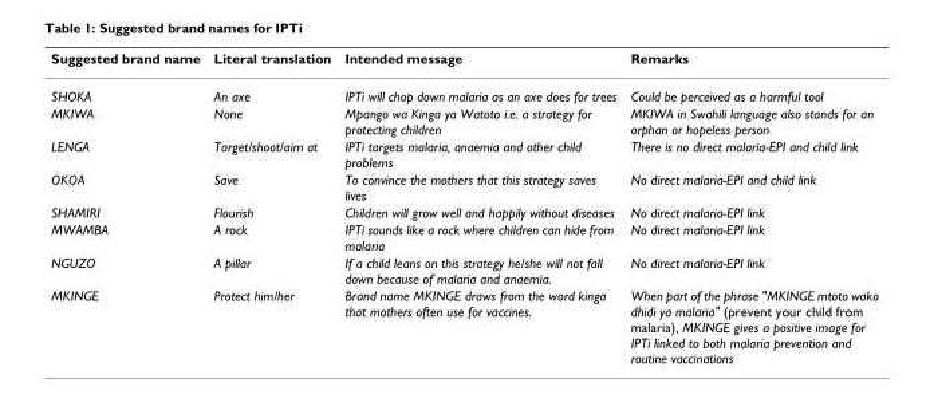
<table><thead><tr><td>Suggested brand name</td><td>Literal translation</td><td>Intended message</td><td>Remarks</td></tr></thead><tbody><tr><td>SHOKA</td><td>An axe</td><td>IPTi will chop down malaria as an axe does for trees</td><td>Could be perceived as a harmful tool</td></tr><tr><td>MKIWA</td><td>None</td><td>Mpango wa Kinga ya Watoto i.e. a strategy for protecting children</td><td>MKIWA in Swahili language also stands for an orphan or hopeless person</td></tr><tr><td>LENGA</td><td>Target/shoot/aim at</td><td>IPTi targets malaria, anaemia and other child problems</td><td>There is no direct malaria-EPI and child link</td></tr><tr><td>OKOA</td><td>Save</td><td>To convince the mothers that this strategy saves lives</td><td>No direct malaria-EPI and child link</td></tr><tr><td>SHAMIRI</td><td>Flourish</td><td>Children will grow well and happily without diseases</td><td>No direct malaria-EPI link</td></tr><tr><td>MWAMBA</td><td>A rock</td><td>IPTi sounds like a rock where children can hide from malaria</td><td>No direct malaria-EPI link</td></tr><tr><td>NGUZO</td><td>A pillar</td><td>If a child leans on this strategy he/she will not fall down because of malaria and anaemia.</td><td>No direct malaria-EPI link</td></tr><tr><td>MKINGE</td><td>Protect him/her</td><td>Brand name MKINGE draws from the word kinga that mothers often use for vaccines.</td><td>When part of the phrase &quot;MKINGE mtoto wako dhidi ya malaria&quot; (prevent your child from malaria), MKINGE gives a positive image for IPTi linked to both malaria prevention and routine vaccinations</td></tr></tbody></table>